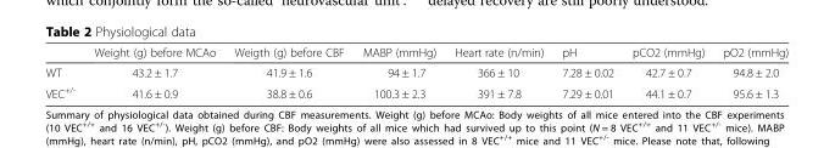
<table><thead><tr><td></td><td>Weight (g) before MCAo</td><td>Weigth (g) before CBF</td><td>MABP (mmHg)</td><td>Heart rate (n/min)</td><td>pH</td><td>pCO2 (mmHg)</td><td>pO2 (mmHg)</td></tr></thead><tbody><tr><td>WT</td><td>43.2 ± 1.7</td><td>41.9 ± 1.6</td><td>94 ± 1.7</td><td>366 ± 10</td><td>7.28 ± 0.02</td><td>42.7 ± 0.7</td><td>94.8 ± 2.0</td></tr><tr><td>VEC<sup>+/-</sup></td><td>41.6 ± 0.9</td><td>38.8 ± 0.6</td><td>100.3 ± 2.3</td><td>391 ± 7.8</td><td>7.29 ± 0.01</td><td>44.1 ± 0.7</td><td>95.6 ± 1.3</td></tr></tbody></table>